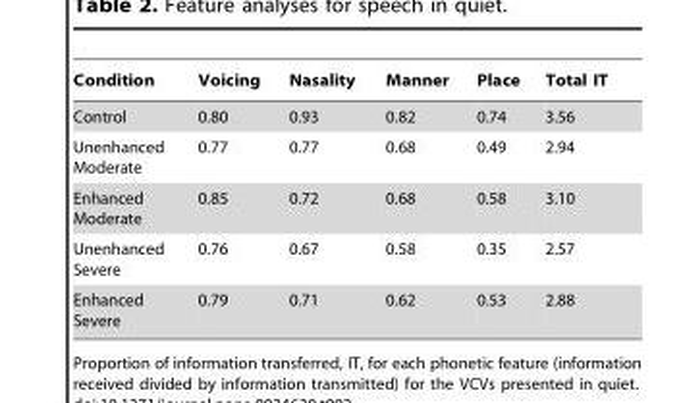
<table><thead><tr><td>Condition</td><td>Voicing</td><td>Nasality</td><td>Manner</td><td>Place</td><td>Total IT</td></tr></thead><tbody><tr><td>Control</td><td>0.80</td><td>0.93</td><td>0.82</td><td>0.74</td><td>3.56</td></tr><tr><td>Unenhanced Moderate</td><td>0.77</td><td>0.77</td><td>0.68</td><td>0.49</td><td>2.94</td></tr><tr><td>Enhanced Moderate</td><td>0.85</td><td>0.72</td><td>0.68</td><td>0.58</td><td>3.10</td></tr><tr><td>Unenhanced Severe</td><td>0.76</td><td>0.67</td><td>0.58</td><td>0.35</td><td>2.57</td></tr><tr><td>Enhanced Severe</td><td>0.79</td><td>0.71</td><td>0.62</td><td>0.53</td><td>2.88</td></tr></tbody></table>